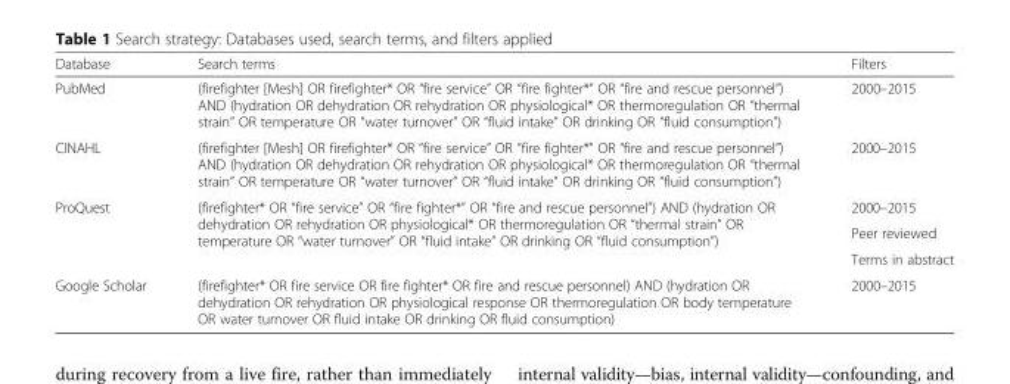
<table><thead><tr><td>Database</td><td>Search terms</td><td>Filters</td></tr></thead><tbody><tr><td>PubMed</td><td>(firefighter [Mesh] OR firefighter* OR “fire service” OR “fire fighter*” OR “fire and rescue personnel”) AND (hydration OR dehydration OR rehydration OR physiological* OR thermoregulation OR “thermal strain” OR temperature OR “water turnover” OR “fluid intake” OR drinking OR “fluid consumption”)</td><td>2000–2015</td></tr><tr><td>CINAHL</td><td>(firefighter [Mesh] OR firefighter* OR “fire service” OR “fire fighter*” OR “fire and rescue personnel”) AND (hydration OR dehydration OR rehydration OR physiological* OR thermoregulation OR “thermal strain” OR temperature OR “water turnover” OR “fluid intake” OR drinking OR “fluid consumption”)</td><td>2000–2015</td></tr><tr><td rowspan="3">ProQuest</td><td rowspan="3">(firefighter* OR “fire service” OR “fire fighter*” OR “fire and rescue personnel”) AND (hydration OR dehydration OR rehydration OR physiological* OR thermoregulation OR “thermal strain” OR temperature OR “water turnover” OR “fluid intake” OR drinking OR “fluid consumption”)</td><td>2000–2015</td></tr><tr><td>Peer reviewed</td></tr><tr><td>Terms in abstract</td></tr><tr><td>Google Scholar</td><td>(firefighter* OR fire service OR fire fighter* OR fire and rescue personnel) AND (hydration OR dehydration OR rehydration OR physiological response OR thermoregulation OR body temperature OR water turnover OR fluid intake OR drinking OR fluid consumption)</td><td>2000–2015</td></tr></tbody></table>